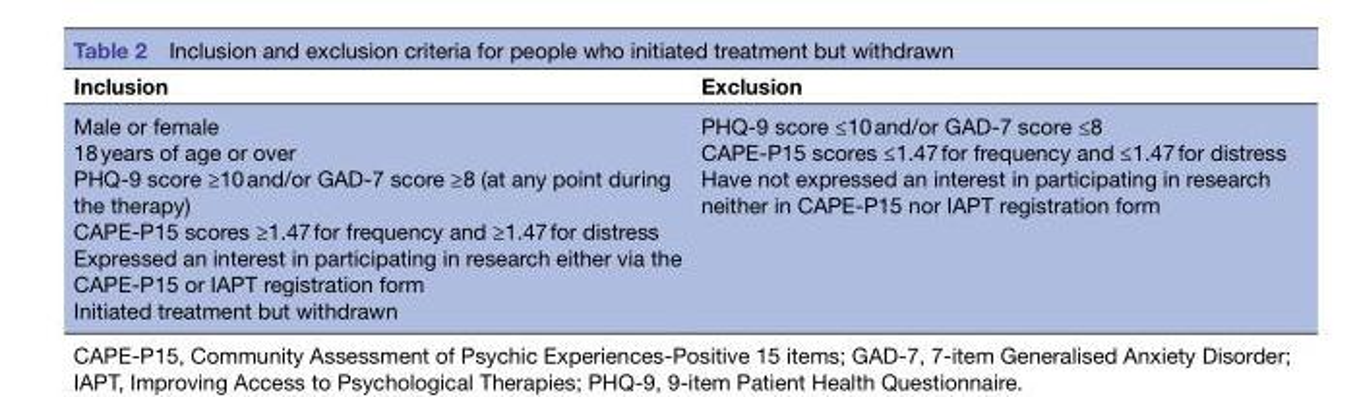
<table><thead><tr><td>Inclusion</td><td>Exclusion</td></tr></thead><tbody><tr><td>Male or female 18 years of age or over PHQ-9 score ≥10 and/or GAD-7 score ≥8 (at any point during the therapy) CAPE-P15 scores ≥1.47 for frequency and ≥1.47 for distress Expressed an interest in participating in research either via the CAPE-P15 or IAPT registration form Initiated treatment but withdrawn</td><td>PHQ-9 score ≤10 and/or GAD-7 score ≤8 CAPE-P15 scores ≤1.47 for frequency and ≤1.47 for distress Have not expressed an interest in participating in research neither in CAPE-P15 nor IAPT registration form</td></tr></tbody></table>